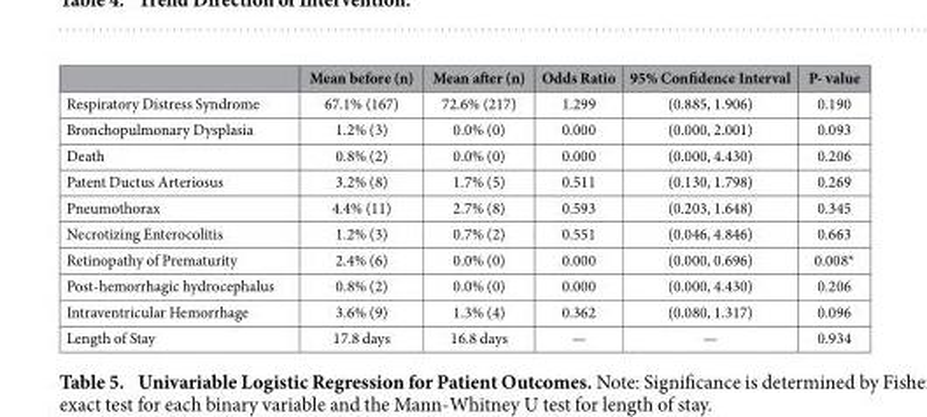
<table><thead><tr><td></td><td>Mean before (n)</td><td>Mean after (n)</td><td>Odds Ratio</td><td>95% Confidence Interval</td><td>P- value</td></tr></thead><tbody><tr><td>Respiratory Distress Syndrome</td><td>67.1% (167)</td><td>72.6% (217)</td><td>1.299</td><td>(0.885, 1.906)</td><td>0.190</td></tr><tr><td>Bronchopulmonary Dysplasia</td><td>1.2% (3)</td><td>0.0% (0)</td><td>0.000</td><td>(0.000, 2.001)</td><td>0.093</td></tr><tr><td>Death</td><td>0.8% (2)</td><td>0.0% (0)</td><td>0.000</td><td>(0.000, 4.430)</td><td>0.206</td></tr><tr><td>Patent Ductus Arteriosus</td><td>3.2% (8)</td><td>1.7% (5)</td><td>0.511</td><td>(0.130, 1.798)</td><td>0.269</td></tr><tr><td>Pneumothorax</td><td>4.4% (11)</td><td>2.7% (8)</td><td>0.593</td><td>(0.203, 1.648)</td><td>0.345</td></tr><tr><td>Necrotizing Enterocolitis</td><td>1.2% (3)</td><td>0.7% (2)</td><td>0.551</td><td>(0.046, 4.846)</td><td>0.663</td></tr><tr><td>Retinopathy of Prematurity</td><td>2.4% (6)</td><td>0.0% (0)</td><td>0.000</td><td>(0.000, 0.696)</td><td>0.008*</td></tr><tr><td>Post-hemorrhagic hydrocephalus</td><td>0.8% (2)</td><td>0.0% (0)</td><td>0.000</td><td>(0.000, 4.430)</td><td>0.206</td></tr><tr><td>Intraventricular Hemorrhage</td><td>3.6% (9)</td><td>1.3% (4)</td><td>0.362</td><td>(0.080, 1.317)</td><td>0.096</td></tr><tr><td>Length of Stay</td><td>17.8 days</td><td>16.8 days</td><td>—</td><td>—</td><td>0.934</td></tr></tbody></table>